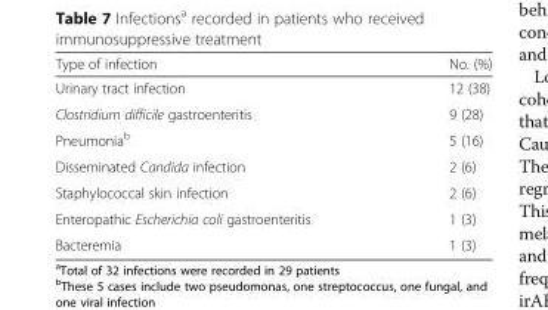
<table><thead><tr><td>Type of infection</td><td>No. (%)</td></tr></thead><tbody><tr><td>Urinary tract infection</td><td>12 (38)</td></tr><tr><td>Clostridium difficile gastroenteritis</td><td>9 (28)</td></tr><tr><td>Pneumonia<sup>b</sup></td><td>5 (16)</td></tr><tr><td>Disseminated Candida infection</td><td>2 (6)</td></tr><tr><td>Staphylococcal skin infection</td><td>2 (6)</td></tr><tr><td>Enteropathic Escherichia coli gastroenteritis</td><td>1 (3)</td></tr><tr><td>Bacteremia</td><td>1 (3)</td></tr></tbody></table>